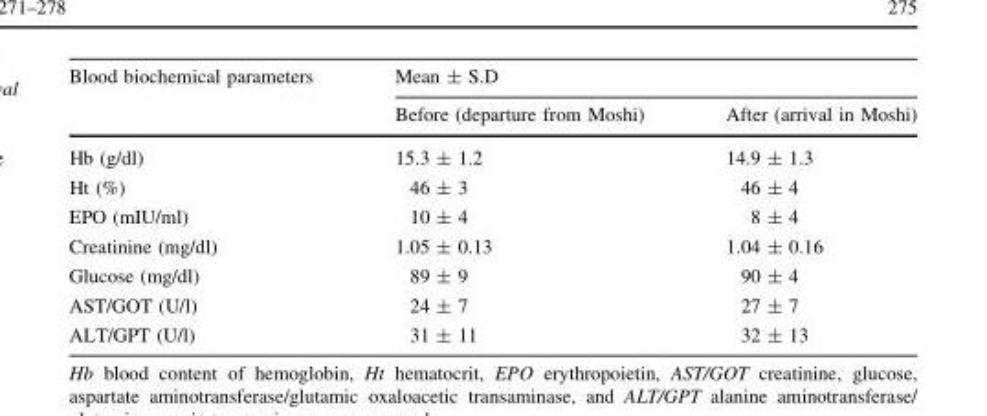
<table><thead><tr><td rowspan="2">Blood biochemical parameters</td><td colspan="2">Mean ± S.D</td></tr><tr><td>Before (departure from Moshi)</td><td>After (arrival in Moshi)</td></tr></thead><tbody><tr><td>Hb (g/dl)</td><td>15.3 ± 1.2</td><td>14.9 ± 1.3</td></tr><tr><td>Ht (%)</td><td>46 ± 3</td><td>46 ± 4</td></tr><tr><td>EPO (mIU/ml)</td><td>10 ± 4</td><td>8 ± 4</td></tr><tr><td>Creatinine (mg/dl)</td><td>1.05 ± 0.13</td><td>1.04 ± 0.16</td></tr><tr><td>Glucose (mg/dl)</td><td>89 ± 9</td><td>90 ± 4</td></tr><tr><td>AST/GOT (U/l)</td><td>24 ± 7</td><td>27 ± 7</td></tr><tr><td>ALT/GPT (U/l)</td><td>31 ± 11</td><td>32 ± 13</td></tr></tbody></table>